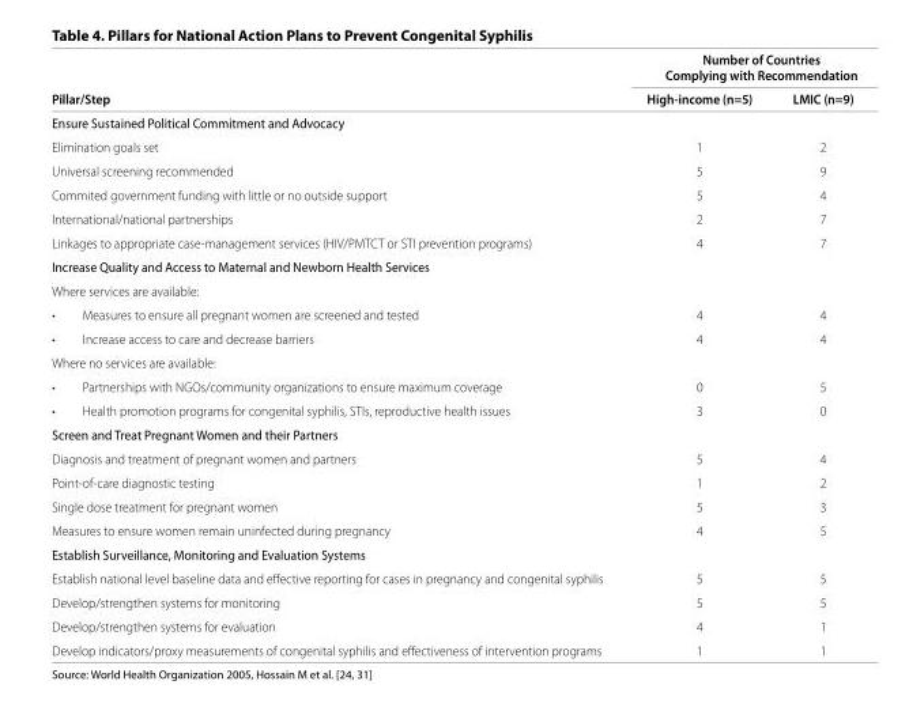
<table><thead><tr><td rowspan="2">Pillar/Step</td><td colspan="2">Number of Countries Complying with Recommendation</td></tr><tr><td>High-income (n=5)</td><td>LMIC (n=9)</td></tr></thead><tbody><tr><td colspan="3">Ensure Sustained Political Commitment and Advocacy</td></tr><tr><td>Elimination goals set</td><td>1</td><td>2</td></tr><tr><td>Universal screening recommended</td><td>5</td><td>9</td></tr><tr><td>Commited government funding with little or no outside support</td><td>5</td><td>4</td></tr><tr><td>International/national partnerships</td><td>2</td><td>7</td></tr><tr><td>Linkages to appropriate case-management services (HIV/PMTCT or STI prevention programs)</td><td>4</td><td>7</td></tr><tr><td colspan="3">Increase Quality and Access to Maternal and Newborn Health Services</td></tr><tr><td colspan="3">Where services are available:</td></tr><tr><td>• Measures to ensure all pregnant women are screened and tested</td><td>4</td><td>4</td></tr><tr><td>• Increase access to care and decrease barriers</td><td>4</td><td>4</td></tr><tr><td colspan="3">Where no services are available:</td></tr><tr><td>• Partnerships with NGOs/community organizations to ensure maximum coverage</td><td>0</td><td>5</td></tr><tr><td>• Health promotion programs for congenital syphilis, STIs, reproductive health issues</td><td>3</td><td>0</td></tr><tr><td colspan="3">Screen and Treat Pregnant Women and their Partners</td></tr><tr><td>Diagnosis and treatment of pregnant women and partners</td><td>5</td><td>4</td></tr><tr><td>Point-of-care diagnostic testing</td><td>1</td><td>2</td></tr><tr><td>Single dose treatment for pregnant women</td><td>5</td><td>3</td></tr><tr><td>Measures to ensure women remain uninfected during pregnancy</td><td>4</td><td>5</td></tr><tr><td colspan="3">Establish Surveillance, Monitoring and Evaluation Systems</td></tr><tr><td>Establish national level baseline data and eff ective reporting for cases in pregnancy and congenital syphilis</td><td>5</td><td>5</td></tr><tr><td>Develop/strengthen systems for monitoring</td><td>5</td><td>5</td></tr><tr><td>Develop/strengthen systems for evaluation</td><td>4</td><td>1</td></tr><tr><td>Develop indicators/proxy measurements of congenital syphilis and eff ectiveness of intervention programs</td><td>1</td><td>1</td></tr></tbody></table>